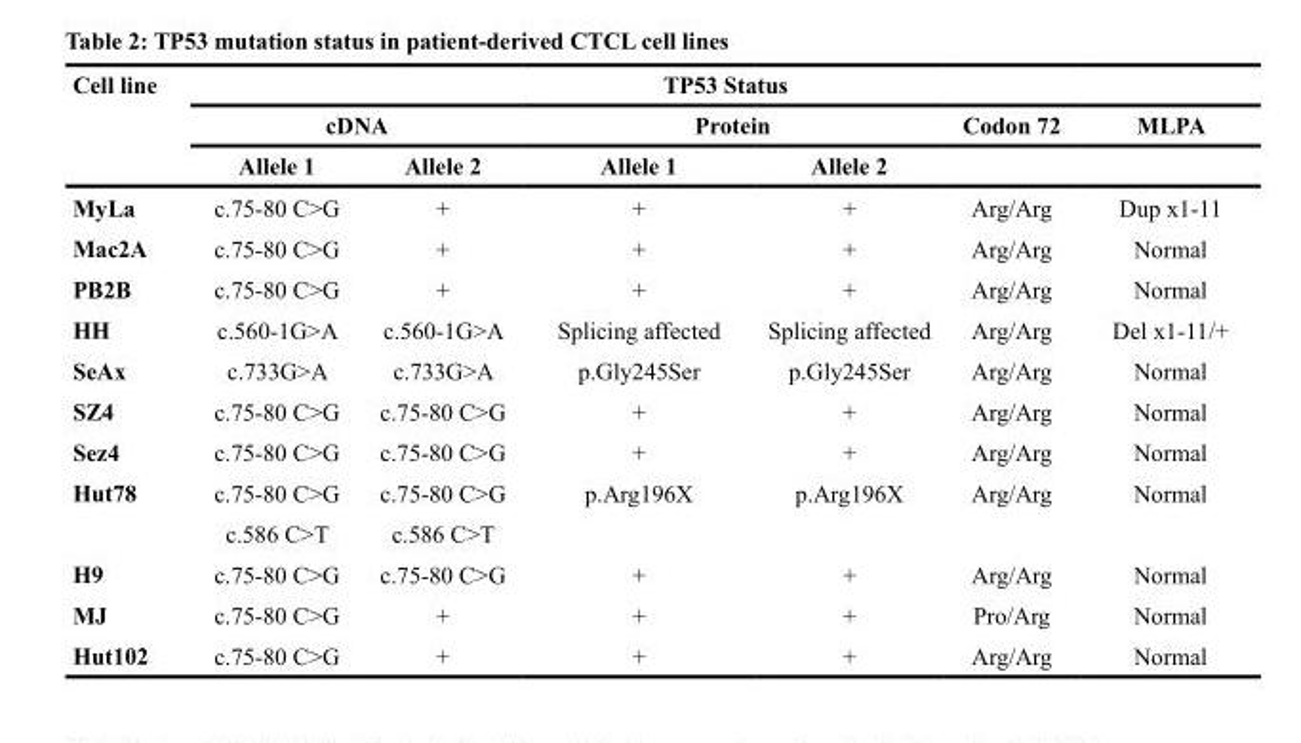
<table><thead><tr><td rowspan="3">Cell line</td><td colspan="6">TP53 Status</td></tr><tr><td colspan="2">cDNA</td><td colspan="2">Protein</td><td rowspan="2">Codon 72</td><td rowspan="2">MLPA</td></tr><tr><td>Allele 1</td><td>Allele 2</td><td>Allele 1</td><td>Allele 2</td></tr></thead><tbody><tr><td>MyLa</td><td>c.75-80 C&gt;G</td><td>+</td><td>+</td><td>+</td><td>Arg/Arg</td><td>Dup x1-11</td></tr><tr><td>Mac2A</td><td>c.75-80 C&gt;G</td><td>+</td><td>+</td><td>+</td><td>Arg/Arg</td><td>Normal</td></tr><tr><td>PB2B</td><td>c.75-80 C&gt;G</td><td>+</td><td>+</td><td>+</td><td>Arg/Arg</td><td>Normal</td></tr><tr><td>HH</td><td>c.560-1G&gt;A</td><td>c.560-1G&gt;A</td><td>Splicing affected</td><td>Splicing affected</td><td>Arg/Arg</td><td>Del x1-11/+</td></tr><tr><td>SeAx</td><td>c.733G&gt;A</td><td>c.733G&gt;A</td><td>p.Gly245Ser</td><td>p.Gly245Ser</td><td>Arg/Arg</td><td>Normal</td></tr><tr><td>SZ4</td><td>c.75-80 C&gt;G</td><td>c.75-80 C&gt;G</td><td>+</td><td>+</td><td>Arg/Arg</td><td>Normal</td></tr><tr><td>Sez4</td><td>c.75-80 C&gt;G</td><td>c.75-80 C&gt;G</td><td>+</td><td>+</td><td>Arg/Arg</td><td>Normal</td></tr><tr><td rowspan="2">Hut78</td><td>c.75-80 C&gt;G</td><td>c.75-80 C&gt;G</td><td>p.Arg196X</td><td>p.Arg196X</td><td>Arg/Arg</td><td>Normal</td></tr><tr><td>c.586 C&gt;T</td><td>c.586 C&gt;T</td><td></td><td></td><td></td><td></td></tr><tr><td>H9</td><td>c.75-80 C&gt;G</td><td>c.75-80 C&gt;G</td><td>+</td><td>+</td><td>Arg/Arg</td><td>Normal</td></tr><tr><td>MJ</td><td>c.75-80 C&gt;G</td><td>+</td><td>+</td><td>+</td><td>Pro/Arg</td><td>Normal</td></tr><tr><td>Hut102</td><td>c.75-80 C&gt;G</td><td>+</td><td>+</td><td>+</td><td>Arg/Arg</td><td>Normal</td></tr></tbody></table>